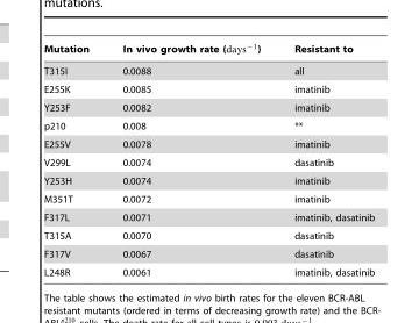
<table><thead><tr><td>Mutation</td><td>In vivo growth rate (days{1)</td><td>Resistant to</td></tr></thead><tbody><tr><td>T315I</td><td>0.0088</td><td>all</td></tr><tr><td>E255K</td><td>0.0085</td><td>imatinib</td></tr><tr><td>Y253F</td><td>0.0082</td><td>imatinib</td></tr><tr><td>p210</td><td>0.008</td><td>**</td></tr><tr><td>E255V</td><td>0.0078</td><td>imatinib</td></tr><tr><td>V299L</td><td>0.0074</td><td>dasatinib</td></tr><tr><td>Y253H</td><td>0.0074</td><td>imatinib</td></tr><tr><td>M351T</td><td>0.0072</td><td>imatinib</td></tr><tr><td>F317L</td><td>0.0071</td><td>imatinib, dasatinib</td></tr><tr><td>T315A</td><td>0.0070</td><td>dasatinib</td></tr><tr><td>F317V</td><td>0.0067</td><td>dasatinib</td></tr><tr><td>L248R</td><td>0.0061</td><td>imatinib, dasatinib</td></tr></tbody></table>